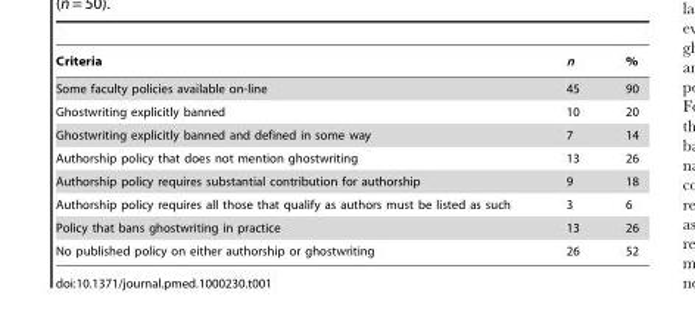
<table><thead><tr><td>Criteria</td><td>n</td><td>%</td></tr></thead><tbody><tr><td>Some faculty policies available on-line</td><td>45</td><td>90</td></tr><tr><td>Ghostwriting explicitly banned</td><td>10</td><td>20</td></tr><tr><td>Ghostwriting explicitly banned and defined in some way</td><td>7</td><td>14</td></tr><tr><td>Authorship policy that does not mention ghostwriting</td><td>13</td><td>26</td></tr><tr><td>Authorship policy requires substantial contribution for authorship</td><td>9</td><td>18</td></tr><tr><td>Authorship policy requires all those that qualify as authors must be listed as such</td><td>3</td><td>6</td></tr><tr><td>Policy that bans ghostwriting in practice</td><td>13</td><td>26</td></tr><tr><td>No published policy on either authorship or ghostwriting</td><td>26</td><td>52</td></tr></tbody></table>